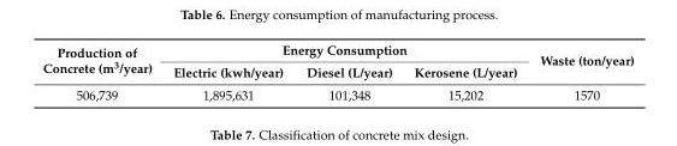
<table><thead><tr><td rowspan="2">Production of Concrete (m<sup>3</sup>/year)</td><td colspan="3">Energy Consumption</td><td rowspan="2">Waste (ton/year)</td></tr><tr><td>Electric (kwh/year)</td><td>Diesel (L/year)</td><td>Kerosene (L/year)</td></tr></thead><tbody><tr><td>506,739</td><td>1,895,631</td><td>101,348</td><td>15,202</td><td>1570</td></tr></tbody></table>